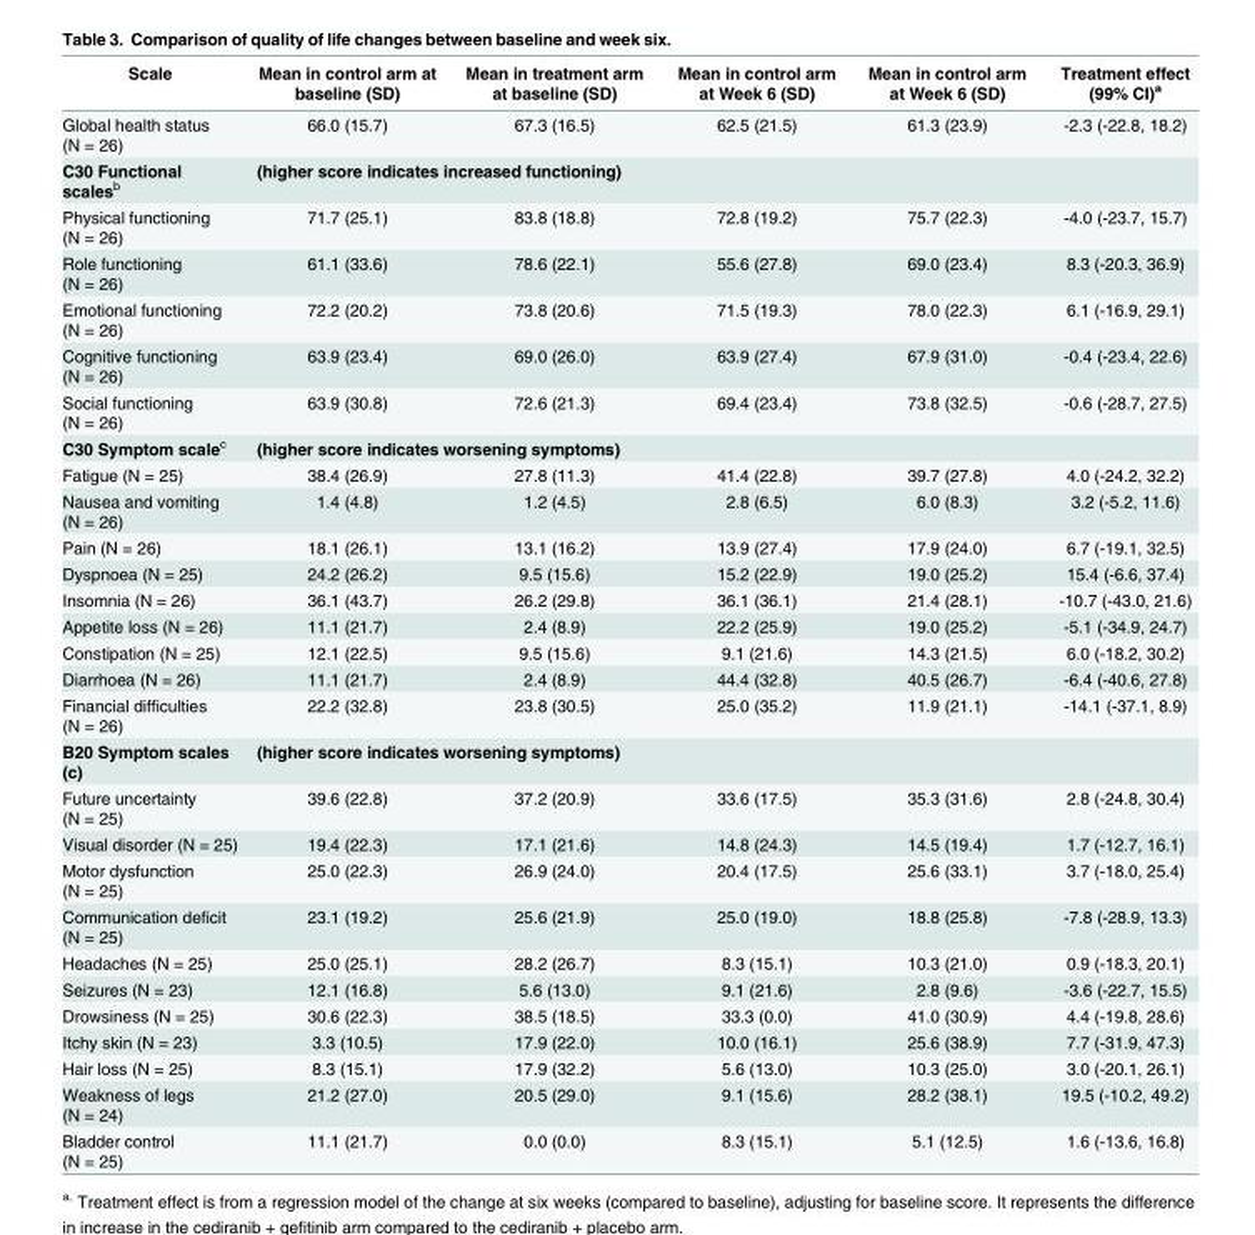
<table><thead><tr><td>Scale</td><td>Mean in control arm at baseline (SD)</td><td>Mean in treatment arm at baseline (SD)</td><td>Mean in control arm at Week 6 (SD)</td><td>Mean in control arm at Week 6 (SD)</td><td>Treatment effect (99% CI)<sup>a</sup></td></tr></thead><tbody><tr><td>Global health status (N = 26)</td><td>66.0 (15.7)</td><td>67.3 (16.5)</td><td>62.5 (21.5)</td><td>61.3 (23.9)</td><td>-2.3 (-22.8, 18.2)</td></tr><tr><td>C30 Functional scales<sup>b</sup></td><td colspan="4">(higher score indicates increased functioning)</td><td></td></tr><tr><td>Physical functioning (N = 26)</td><td>71.7 (25.1)</td><td>83.8 (18.8)</td><td>72.8 (19.2)</td><td>75.7 (22.3)</td><td>-4.0 (-23.7, 15.7)</td></tr><tr><td>Role functioning (N = 26)</td><td>61.1 (33.6)</td><td>78.6 (22.1)</td><td>55.6 (27.8)</td><td>69.0 (23.4)</td><td>8.3 (-20.3, 36.9)</td></tr><tr><td>Emotional functioning (N = 26)</td><td>72.2 (20.2)</td><td>73.8 (20.6)</td><td>71.5 (19.3)</td><td>78.0 (22.3)</td><td>6.1 (-16.9, 29.1)</td></tr><tr><td>Cognitive functioning (N = 26)</td><td>63.9 (23.4)</td><td>69.0 (26.0)</td><td>63.9 (27.4)</td><td>67.9 (31.0)</td><td>-0.4 (-23.4, 22.6)</td></tr><tr><td>Social functioning (N = 26)</td><td>63.9 (30.8)</td><td>72.6 (21.3)</td><td>69.4 (23.4)</td><td>73.8 (32.5)</td><td>-0.6 (-28.7, 27.5)</td></tr><tr><td>C30 Symptom scale<sup>c</sup></td><td colspan="4">(higher score indicates worsening symptoms)</td><td></td></tr><tr><td>Fatigue (N = 25)</td><td>38.4 (26.9)</td><td>27.8 (11.3)</td><td>41.4 (22.8)</td><td>39.7 (27.8)</td><td>4.0 (-24.2, 32.2)</td></tr><tr><td>Nausea and vomiting (N = 26)</td><td>1.4 (4.8)</td><td>1.2 (4.5)</td><td>2.8 (6.5)</td><td>6.0 (8.3)</td><td>3.2 (-5.2, 11.6)</td></tr><tr><td>Pain (N = 26)</td><td>18.1 (26.1)</td><td>13.1 (16.2)</td><td>13.9 (27.4)</td><td>17.9 (24.0)</td><td>6.7 (-19.1, 32.5)</td></tr><tr><td>Dyspnoea (N = 25)</td><td>24.2 (26.2)</td><td>9.5 (15.6)</td><td>15.2 (22.9)</td><td>19.0 (25.2)</td><td>15.4 (-6.6, 37.4)</td></tr><tr><td>Insomnia (N = 26)</td><td>36.1 (43.7)</td><td>26.2 (29.8)</td><td>36.1 (36.1)</td><td>21.4 (28.1)</td><td>-10.7 (-43.0, 21.6)</td></tr><tr><td>Appetite loss (N = 26)</td><td>11.1 (21.7)</td><td>2.4 (8.9)</td><td>22.2 (25.9)</td><td>19.0 (25.2)</td><td>-5.1 (-34.9, 24.7)</td></tr><tr><td>Constipation (N = 25)</td><td>12.1 (22.5)</td><td>9.5 (15.6)</td><td>9.1 (21.6)</td><td>14.3 (21.5)</td><td>6.0 (-18.2, 30.2)</td></tr><tr><td>Diarrhoea (N = 26)</td><td>11.1 (21.7)</td><td>2.4 (8.9)</td><td>44.4 (32.8)</td><td>40.5 (26.7)</td><td>-6.4 (-40.6, 27.8)</td></tr><tr><td>Financial difficulties (N = 26)</td><td>22.2 (32.8)</td><td>23.8 (30.5)</td><td>25.0 (35.2)</td><td>11.9 (21.1)</td><td>-14.1 (-37.1, 8.9)</td></tr><tr><td>B20 Symptom scales (c)</td><td colspan="4">(higher score indicates worsening symptoms)</td><td></td></tr><tr><td>Future uncertainty (N = 25)</td><td>39.6 (22.8)</td><td>37.2 (20.9)</td><td>33.6 (17.5)</td><td>35.3 (31.6)</td><td>2.8 (-24.8, 30.4)</td></tr><tr><td>Visual disorder (N = 25)</td><td>19.4 (22.3)</td><td>17.1 (21.6)</td><td>14.8 (24.3)</td><td>14.5 (19.4)</td><td>1.7 (-12.7, 16.1)</td></tr><tr><td>Motor dysfunction (N = 25)</td><td>25.0 (22.3)</td><td>26.9 (24.0)</td><td>20.4 (17.5)</td><td>25.6 (33.1)</td><td>3.7 (-18.0, 25.4)</td></tr><tr><td>Communication deficit (N = 25)</td><td>23.1 (19.2)</td><td>25.6 (21.9)</td><td>25.0 (19.0)</td><td>18.8 (25.8)</td><td>-7.8 (-28.9, 13.3)</td></tr><tr><td>Headaches (N = 25)</td><td>25.0 (25.1)</td><td>28.2 (26.7)</td><td>8.3 (15.1)</td><td>10.3 (21.0)</td><td>0.9 (-18.3, 20.1)</td></tr><tr><td>Seizures (N = 23)</td><td>12.1 (16.8)</td><td>5.6 (13.0)</td><td>9.1 (21.6)</td><td>2.8 (9.6)</td><td>-3.6 (-22.7, 15.5)</td></tr><tr><td>Drowsiness (N = 25)</td><td>30.6 (22.3)</td><td>38.5 (18.5)</td><td>33.3 (0.0)</td><td>41.0 (30.9)</td><td>4.4 (-19.8, 28.6)</td></tr><tr><td>Itchy skin (N = 23)</td><td>3.3 (10.5)</td><td>17.9 (22.0)</td><td>10.0 (16.1)</td><td>25.6 (38.9)</td><td>7.7 (-31.9, 47.3)</td></tr><tr><td>Hair loss (N = 25)</td><td>8.3 (15.1)</td><td>17.9 (32.2)</td><td>5.6 (13.0)</td><td>10.3 (25.0)</td><td>3.0 (-20.1, 26.1)</td></tr><tr><td>Weakness of legs (N = 24)</td><td>21.2 (27.0)</td><td>20.5 (29.0)</td><td>9.1 (15.6)</td><td>28.2 (38.1)</td><td>19.5 (-10.2, 49.2)</td></tr><tr><td>Bladder control (N = 25)</td><td>11.1 (21.7)</td><td>0.0 (0.0)</td><td>8.3 (15.1)</td><td>5.1 (12.5)</td><td>1.6 (-13.6, 16.8)</td></tr></tbody></table>